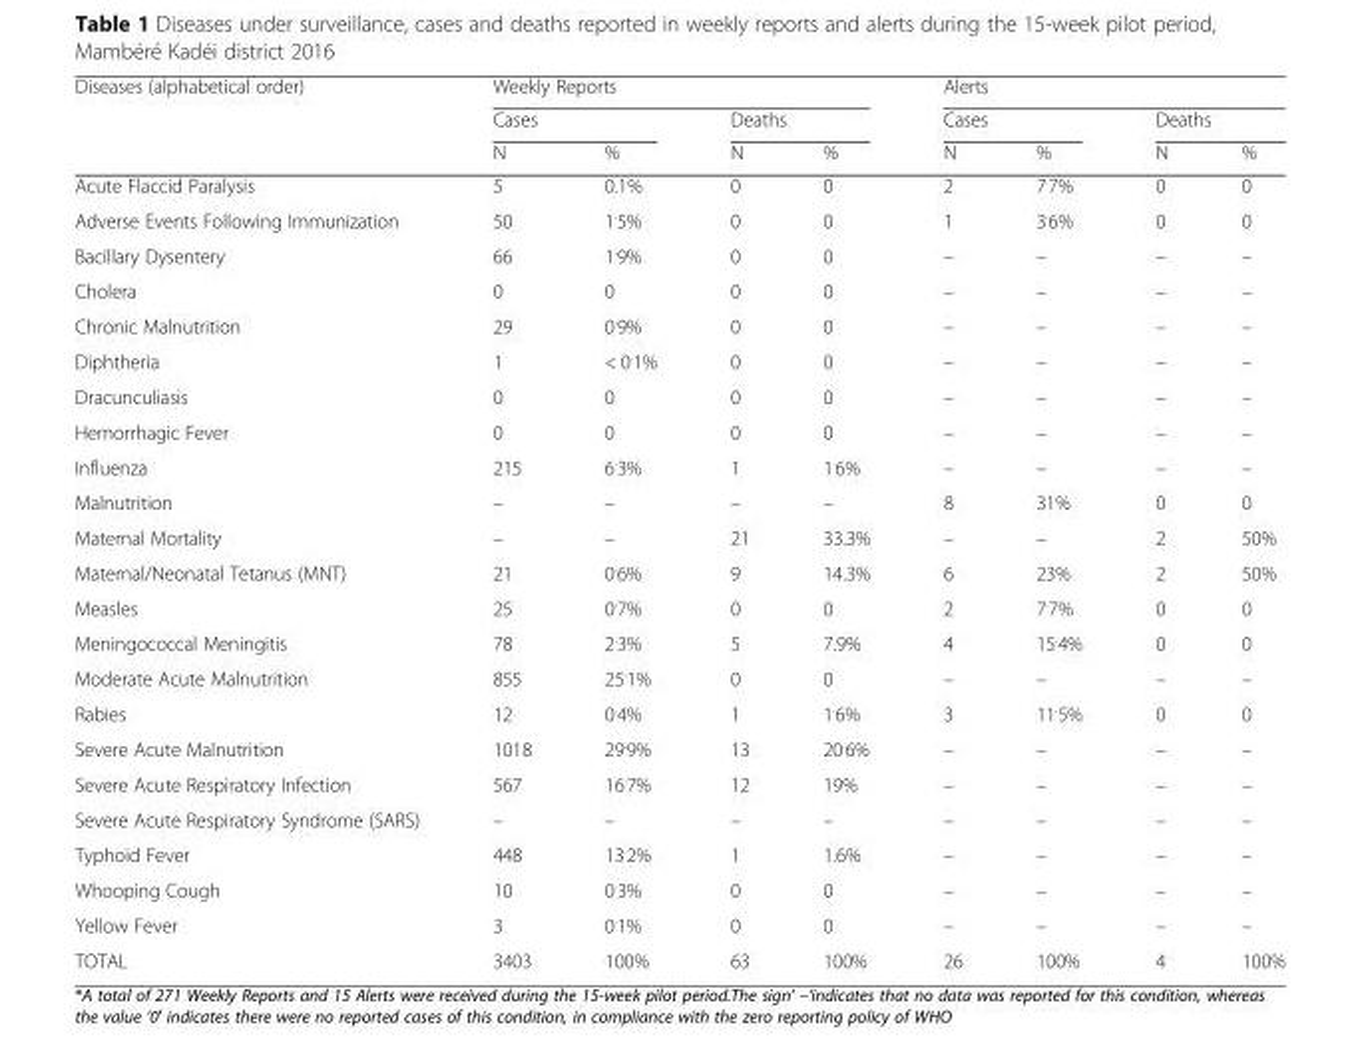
<table><thead><tr><td rowspan="3">Diseases (alphabetical order)</td><td colspan="4">Weekly Reports</td><td colspan="4">Alerts</td></tr><tr><td colspan="2">Cases</td><td colspan="2">Deaths</td><td colspan="2">Cases</td><td colspan="2">Deaths</td></tr><tr><td>N</td><td>%</td><td>N</td><td>%</td><td>N</td><td>%</td><td>N</td><td>%</td></tr></thead><tbody><tr><td>Acute Flaccid Paralysis</td><td>5</td><td>0.1%</td><td>0</td><td>0</td><td>2</td><td>7<sup>.</sup>7%</td><td>0</td><td>0</td></tr><tr><td>Adverse Events Following Immunization</td><td>50</td><td>1<sup>.</sup>5%</td><td>0</td><td>0</td><td>1</td><td>3<sup>.</sup>6%</td><td>0</td><td>0</td></tr><tr><td>Bacillary Dysentery</td><td>66</td><td>1<sup>.</sup>9%</td><td>0</td><td>0</td><td>–</td><td>–</td><td>–</td><td>–</td></tr><tr><td>Cholera</td><td>0</td><td>0</td><td>0</td><td>0</td><td>–</td><td>–</td><td>–</td><td>–</td></tr><tr><td>Chronic Malnutrition</td><td>29</td><td>0<sup>.</sup>9%</td><td>0</td><td>0</td><td>–</td><td>–</td><td>–</td><td>–</td></tr><tr><td>Diphtheria</td><td>1</td><td>&lt; 0<sup>.</sup>1%</td><td>0</td><td>0</td><td>–</td><td>–</td><td>–</td><td>–</td></tr><tr><td>Dracunculiasis</td><td>0</td><td>0</td><td>0</td><td>0</td><td>–</td><td>–</td><td>–</td><td>–</td></tr><tr><td>Hemorrhagic Fever</td><td>0</td><td>0</td><td>0</td><td>0</td><td>–</td><td>–</td><td>–</td><td>–</td></tr><tr><td>Influenza</td><td>215</td><td>6<sup>.</sup>3%</td><td>1</td><td>1<sup>.</sup>6%</td><td>–</td><td>–</td><td>–</td><td>–</td></tr><tr><td>Malnutrition</td><td>–</td><td>–</td><td>–</td><td>–</td><td>8</td><td>31%</td><td>0</td><td>0</td></tr><tr><td>Maternal Mortality</td><td>–</td><td>–</td><td>21</td><td>33.3%</td><td>–</td><td>–</td><td>2</td><td>50%</td></tr><tr><td>Maternal/Neonatal Tetanus (MNT)</td><td>21</td><td>0<sup>.</sup>6%</td><td>9</td><td>14.3%</td><td>6</td><td>23%</td><td>2</td><td>50%</td></tr><tr><td>Measles</td><td>25</td><td>0<sup>.</sup>7%</td><td>0</td><td>0</td><td>2</td><td>7<sup>.</sup>7%</td><td>0</td><td>0</td></tr><tr><td>Meningococcal Meningitis</td><td>78</td><td>2<sup>.</sup>3%</td><td>5</td><td>7.9%</td><td>4</td><td>15<sup>.</sup>4%</td><td>0</td><td>0</td></tr><tr><td>Moderate Acute Malnutrition</td><td>855</td><td>25<sup>.</sup>1%</td><td>0</td><td>0</td><td>–</td><td>–</td><td>–</td><td>–</td></tr><tr><td>Rabies</td><td>12</td><td>0<sup>.</sup>4%</td><td>1</td><td>1<sup>.</sup>6%</td><td>3</td><td>11<sup>.</sup>5%</td><td>0</td><td>0</td></tr><tr><td>Severe Acute Malnutrition</td><td>1018</td><td>29<sup>.</sup>9%</td><td>13</td><td>20<sup>.</sup>6%</td><td>–</td><td>–</td><td>–</td><td>–</td></tr><tr><td>Severe Acute Respiratory Infection</td><td>567</td><td>16<sup>.</sup>7%</td><td>12</td><td>19%</td><td>–</td><td>–</td><td>–</td><td>–</td></tr><tr><td>Severe Acute Respiratory Syndrome (SARS)</td><td>–</td><td>–</td><td>–</td><td>–</td><td>–</td><td>–</td><td>–</td><td>–</td></tr><tr><td>Typhoid Fever</td><td>448</td><td>13<sup>.</sup>2%</td><td>1</td><td>1.6%</td><td>–</td><td>–</td><td>–</td><td>–</td></tr><tr><td>Whooping Cough</td><td>10</td><td>0<sup>.</sup>3%</td><td>0</td><td>0</td><td>–</td><td>–</td><td>–</td><td>–</td></tr><tr><td>Yellow Fever</td><td>3</td><td>0<sup>.</sup>1%</td><td>0</td><td>0</td><td>–</td><td>–</td><td>–</td><td>–</td></tr><tr><td>TOTAL</td><td>3403</td><td>100%</td><td>63</td><td>100%</td><td>26</td><td>100%</td><td>4</td><td>100%</td></tr></tbody></table>